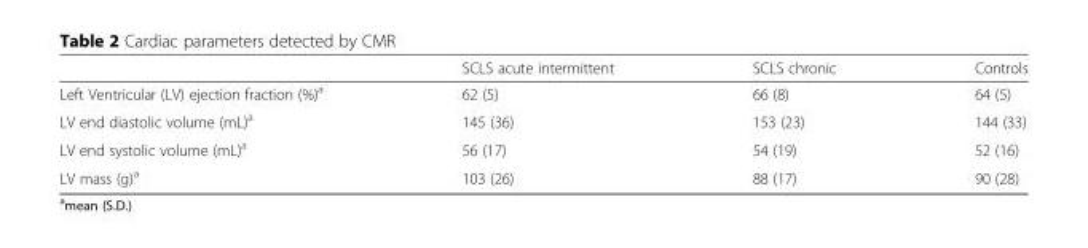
<table><thead><tr><td></td><td>SCLS acute intermittent</td><td>SCLS chronic</td><td>Controls</td></tr></thead><tbody><tr><td>Left Ventricular (LV) ejection fraction (%)<sup>a</sup></td><td>62 (5)</td><td>66 (8)</td><td>64 (5)</td></tr><tr><td>LV end diastolic volume (mL)<sup>a</sup></td><td>145 (36)</td><td>153 (23)</td><td>144 (33)</td></tr><tr><td>LV end systolic volume (mL)<sup>a</sup></td><td>56 (17)</td><td>54 (19)</td><td>52 (16)</td></tr><tr><td>LV mass (g)<sup>a</sup></td><td>103 (26)</td><td>88 (17)</td><td>90 (28)</td></tr></tbody></table>